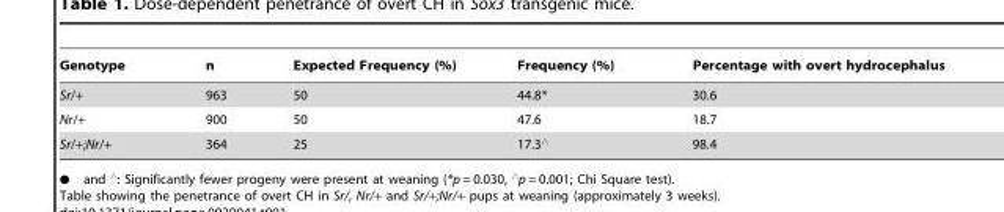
<table><thead><tr><td>Genotype</td><td>n</td><td>Expected Frequency (%)</td><td>Frequency (%)</td><td>Percentage with overt hydrocephalus</td></tr></thead><tbody><tr><td>Sr/+</td><td>963</td><td>50</td><td>44.8*</td><td>30.6</td></tr><tr><td>Nr/+</td><td>900</td><td>50</td><td>47.6</td><td>18.7</td></tr><tr><td>Sr/+;Nr/+</td><td>364</td><td>25</td><td>17.3‘</td><td>98.4</td></tr></tbody></table>